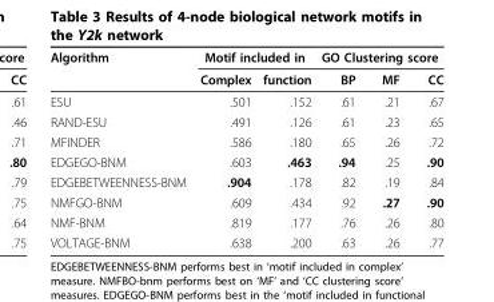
<table><thead><tr><td rowspan="2">Algorithm</td><td colspan="2">Motif included in</td><td colspan="3">GO Clustering score</td></tr><tr><td>Complex</td><td>function</td><td>BP</td><td>MF</td><td>CC</td></tr></thead><tbody><tr><td>ESU</td><td>.501</td><td>.152</td><td>.61</td><td>.21</td><td>.67</td></tr><tr><td>RAND-ESU</td><td>.491</td><td>.126</td><td>.61</td><td>.23</td><td>.65</td></tr><tr><td>MFINDER</td><td>.586</td><td>.180</td><td>.65</td><td>.26</td><td>.72</td></tr><tr><td>EDGEGO-BNM</td><td>.603</td><td>.463</td><td>.94</td><td>.25</td><td>.90</td></tr><tr><td>EDGEBETWEENNESS-BNM</td><td>.904</td><td>.178</td><td>.82</td><td>.19</td><td>.84</td></tr><tr><td>NMFGO-BNM</td><td>.609</td><td>.434</td><td>.92</td><td>.27</td><td>.90</td></tr><tr><td>NMF-BNM</td><td>.819</td><td>.177</td><td>.76</td><td>.26</td><td>.80</td></tr><tr><td>VOLTAGE-BNM</td><td>.638</td><td>.200</td><td>.63</td><td>.26</td><td>.77</td></tr></tbody></table>